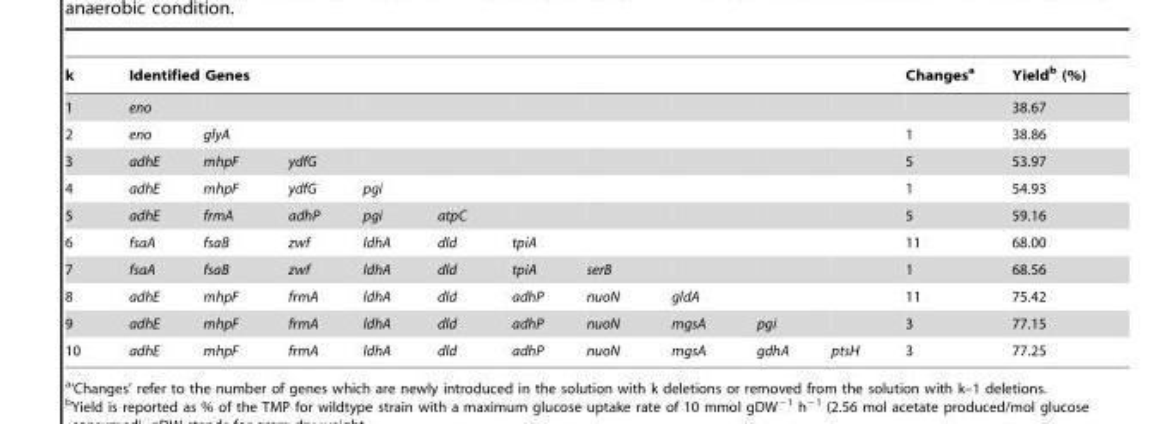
<table><thead><tr><td rowspan="2">k 1</td><td colspan="10">Identified Genes</td><td rowspan="2">Changes<sup>a</sup></td><td rowspan="2">Yield<sup>b</sup> (%) 38.67</td></tr><tr><td>eno</td><td></td><td></td><td></td><td></td><td></td><td></td><td></td><td></td><td></td></tr></thead><tbody><tr><td>2</td><td>eno</td><td>glyA</td><td></td><td></td><td></td><td></td><td></td><td></td><td></td><td></td><td>1</td><td>38.86</td></tr><tr><td>3</td><td>adhE</td><td>mhpF</td><td>ydfG</td><td></td><td></td><td></td><td></td><td></td><td></td><td></td><td>5</td><td>53.97</td></tr><tr><td>4</td><td>adhE</td><td>mhpF</td><td>ydfG</td><td>pgi</td><td></td><td></td><td></td><td></td><td></td><td></td><td>1</td><td>54.93</td></tr><tr><td>5</td><td>adhE</td><td>frmA</td><td>adhP</td><td>pgi</td><td>atpC</td><td></td><td></td><td></td><td></td><td></td><td>5</td><td>59.16</td></tr><tr><td>6</td><td>fsaA</td><td>fsaB</td><td>zwf</td><td>ldhA</td><td>dld</td><td>tpiA</td><td></td><td></td><td></td><td></td><td>11</td><td>68.00</td></tr><tr><td>7</td><td>fsaA</td><td>fsaB</td><td>zwf</td><td>ldhA</td><td>dld</td><td>tpiA</td><td>serB</td><td></td><td></td><td></td><td>1</td><td>68.56</td></tr><tr><td>8</td><td>adhE</td><td>mhpF</td><td>frmA</td><td>ldhA</td><td>dld</td><td>adhP</td><td>nuoN</td><td>gldA</td><td></td><td></td><td>11</td><td>75.42</td></tr><tr><td>9</td><td>adhE</td><td>mhpF</td><td>frmA</td><td>ldhA</td><td>dld</td><td>adhP</td><td>nuoN</td><td>mgsA</td><td>pgi</td><td></td><td>3</td><td>77.15</td></tr><tr><td>10</td><td>adhE</td><td>mhpF</td><td>frmA</td><td>ldhA</td><td>dld</td><td>adhP</td><td>nuoN</td><td>mgsA</td><td>gdhA</td><td>ptsH</td><td>3</td><td>77.25</td></tr></tbody></table>